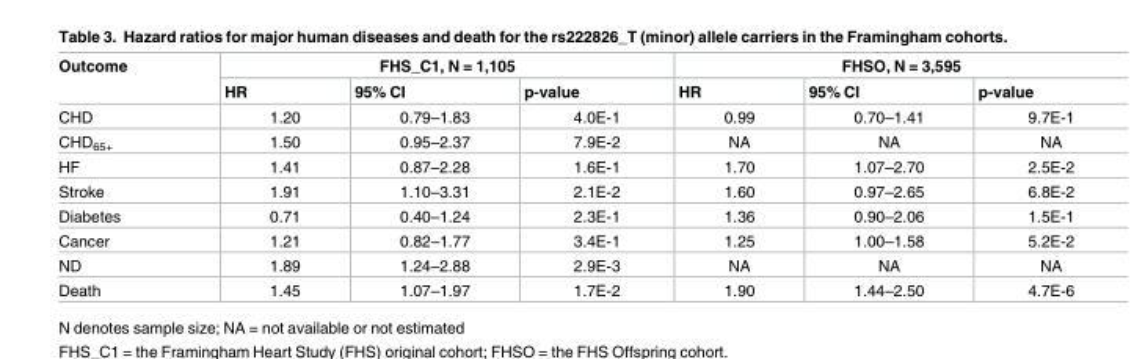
<table><thead><tr><td rowspan="2">Outcome</td><td colspan="3">FHS_C1, N = 1,105</td><td colspan="3">FHSO, N = 3,595</td></tr><tr><td>HR</td><td>95% CI</td><td>p-value</td><td>HR</td><td>95% CI</td><td>p-value</td></tr></thead><tbody><tr><td>CHD</td><td>1.20</td><td>0.79–1.83</td><td>4.0E-1</td><td>0.99</td><td>0.70–1.41</td><td>9.7E-1</td></tr><tr><td>CHD<sub>65+</sub></td><td>1.50</td><td>0.95–2.37</td><td>7.9E-2</td><td>NA</td><td>NA</td><td>NA</td></tr><tr><td>HF</td><td>1.41</td><td>0.87–2.28</td><td>1.6E-1</td><td>1.70</td><td>1.07–2.70</td><td>2.5E-2</td></tr><tr><td>Stroke</td><td>1.91</td><td>1.10–3.31</td><td>2.1E-2</td><td>1.60</td><td>0.97–2.65</td><td>6.8E-2</td></tr><tr><td>Diabetes</td><td>0.71</td><td>0.40–1.24</td><td>2.3E-1</td><td>1.36</td><td>0.90–2.06</td><td>1.5E-1</td></tr><tr><td>Cancer</td><td>1.21</td><td>0.82–1.77</td><td>3.4E-1</td><td>1.25</td><td>1.00–1.58</td><td>5.2E-2</td></tr><tr><td>ND</td><td>1.89</td><td>1.24–2.88</td><td>2.9E-3</td><td>NA</td><td>NA</td><td>NA</td></tr><tr><td>Death</td><td>1.45</td><td>1.07–1.97</td><td>1.7E-2</td><td>1.90</td><td>1.44–2.50</td><td>4.7E-6</td></tr></tbody></table>